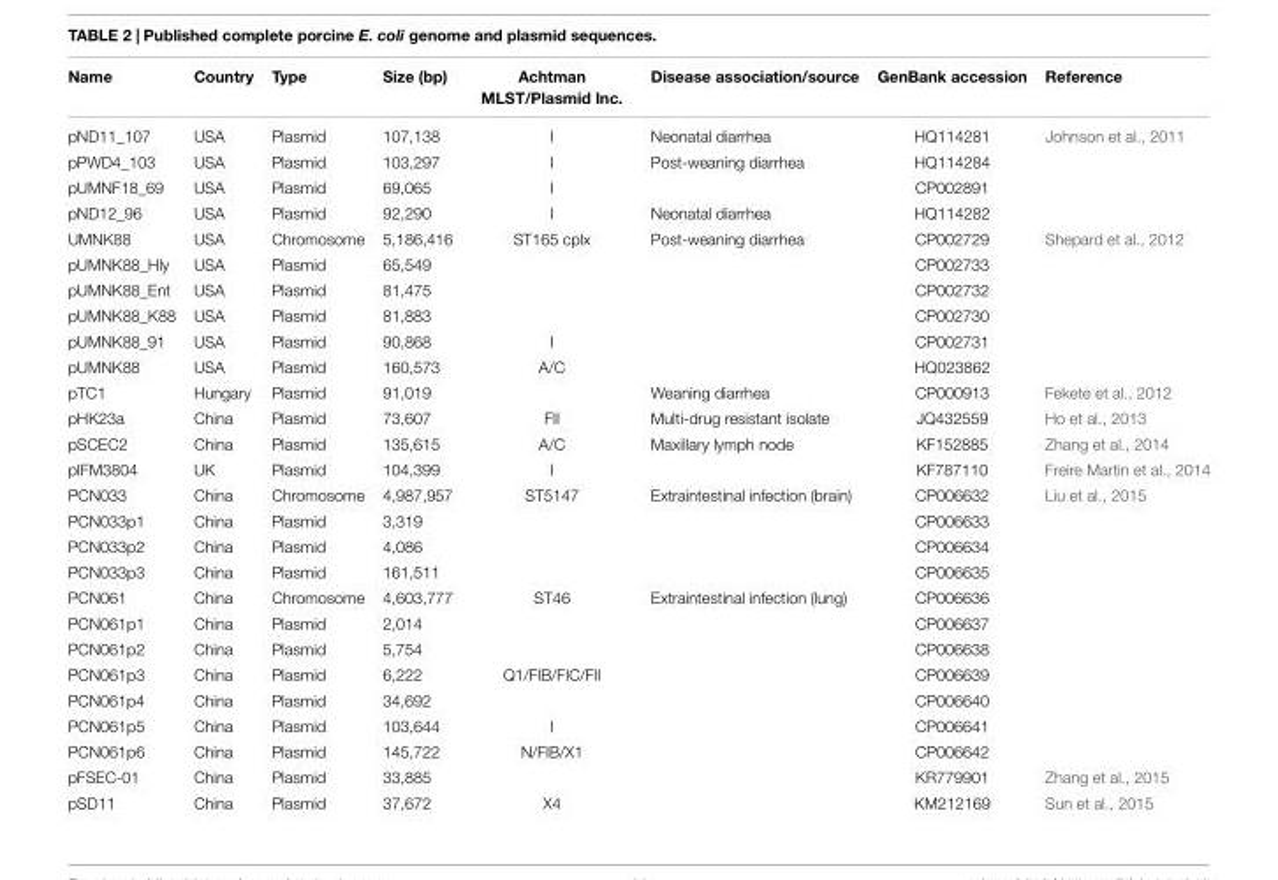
<table><thead><tr><td>Name</td><td>Country</td><td>Type</td><td>Size (bp)</td><td>Achtman MLST/Plasmid Inc.</td><td>Disease association/source</td><td>GenBank accession</td><td>Reference</td></tr></thead><tbody><tr><td>pND11_107</td><td>USA</td><td>Plasmid</td><td>107,138</td><td>I</td><td>Neonatal diarrhea</td><td>HQ114281</td><td>Johnson et al., 2011</td></tr><tr><td>pPWD4_103</td><td>USA</td><td>Plasmid</td><td>103,297</td><td>I</td><td>Post-weaning diarrhea</td><td>HQ114284</td><td></td></tr><tr><td>pUMNF18_69</td><td>USA</td><td>Plasmid</td><td>69,065</td><td>I</td><td></td><td>CP002891</td><td></td></tr><tr><td>pND12_96</td><td>USA</td><td>Plasmid</td><td>92,290</td><td>I</td><td>Neonatal diarrhea</td><td>HQ114282</td><td></td></tr><tr><td>UMNK88</td><td>USA</td><td>Chromosome</td><td>5,186,416</td><td>ST165 cplx</td><td>Post-weaning diarrhea</td><td>CP002729</td><td>Shepard et al., 2012</td></tr><tr><td>pUMNK88_Hly</td><td>USA</td><td>Plasmid</td><td>65,549</td><td></td><td></td><td>CP002733</td><td></td></tr><tr><td>pUMNK88_Ent</td><td>USA</td><td>Plasmid</td><td>81,475</td><td></td><td></td><td>CP002732</td><td></td></tr><tr><td>pUMNK88_K88</td><td>USA</td><td>Plasmid</td><td>81,883</td><td></td><td></td><td>CP002730</td><td></td></tr><tr><td>pUMNK88_91</td><td>USA</td><td>Plasmid</td><td>90,868</td><td>I</td><td></td><td>CP002731</td><td></td></tr><tr><td>pUMNK88</td><td>USA</td><td>Plasmid</td><td>160,573</td><td>A/C</td><td></td><td>HQ023862</td><td></td></tr><tr><td>pTC1</td><td>Hungary</td><td>Plasmid</td><td>91,019</td><td></td><td>Weaning diarrhea</td><td>CP000913</td><td>Fekete et al., 2012</td></tr><tr><td>pHK23a</td><td>China</td><td>Plasmid</td><td>73,607</td><td>FII</td><td>Multi-drug resistant isolate</td><td>JQ432559</td><td>Ho et al., 2013</td></tr><tr><td>pSCEC2</td><td>China</td><td>Plasmid</td><td>135,615</td><td>A/C</td><td>Maxillary lymph node</td><td>KF152885</td><td>Zhang et al., 2014</td></tr><tr><td>pIFM3804</td><td>UK</td><td>Plasmid</td><td>104,399</td><td>I</td><td></td><td>KF787110</td><td>Freire Martin et al., 2014</td></tr><tr><td>PCN033</td><td>China</td><td>Chromosome</td><td>4,987,957</td><td>ST5147</td><td>Extraintestinal infection (brain)</td><td>CP006632</td><td>Liu et al., 2015</td></tr><tr><td>PCN033p1</td><td>China</td><td>Plasmid</td><td>3,319</td><td></td><td></td><td>CP006633</td><td></td></tr><tr><td>PCN033p2</td><td>China</td><td>Plasmid</td><td>4,086</td><td></td><td></td><td>CP006634</td><td></td></tr><tr><td>PCN033p3</td><td>China</td><td>Plasmid</td><td>161,511</td><td></td><td></td><td>CP006635</td><td></td></tr><tr><td>PCN061</td><td>China</td><td>Chromosome</td><td>4,603,777</td><td>ST46</td><td>Extraintestinal infection (lung)</td><td>CP006636</td><td></td></tr><tr><td>PCN061p1</td><td>China</td><td>Plasmid</td><td>2,014</td><td></td><td></td><td>CP006637</td><td></td></tr><tr><td>PCN061p2</td><td>China</td><td>Plasmid</td><td>5,754</td><td></td><td></td><td>CP006638</td><td></td></tr><tr><td>PCN061p3</td><td>China</td><td>Plasmid</td><td>6,222</td><td>Q1/FIB/FIC/FII</td><td></td><td>CP006639</td><td></td></tr><tr><td>PCN061p4</td><td>China</td><td>Plasmid</td><td>34,692</td><td></td><td></td><td>CP006640</td><td></td></tr><tr><td>PCN061p5</td><td>China</td><td>Plasmid</td><td>103,644</td><td>I</td><td></td><td>CP006641</td><td></td></tr><tr><td>PCN061p6</td><td>China</td><td>Plasmid</td><td>145,722</td><td>N/FIB/X1</td><td></td><td>CP006642</td><td></td></tr><tr><td>pFSEC-01</td><td>China</td><td>Plasmid</td><td>33,885</td><td></td><td></td><td>KR779901</td><td>Zhang et al., 2015</td></tr><tr><td>pSD11</td><td>China</td><td>Plasmid</td><td>37,672</td><td>X4</td><td></td><td>KM212169</td><td>Sun et al., 2015</td></tr></tbody></table>